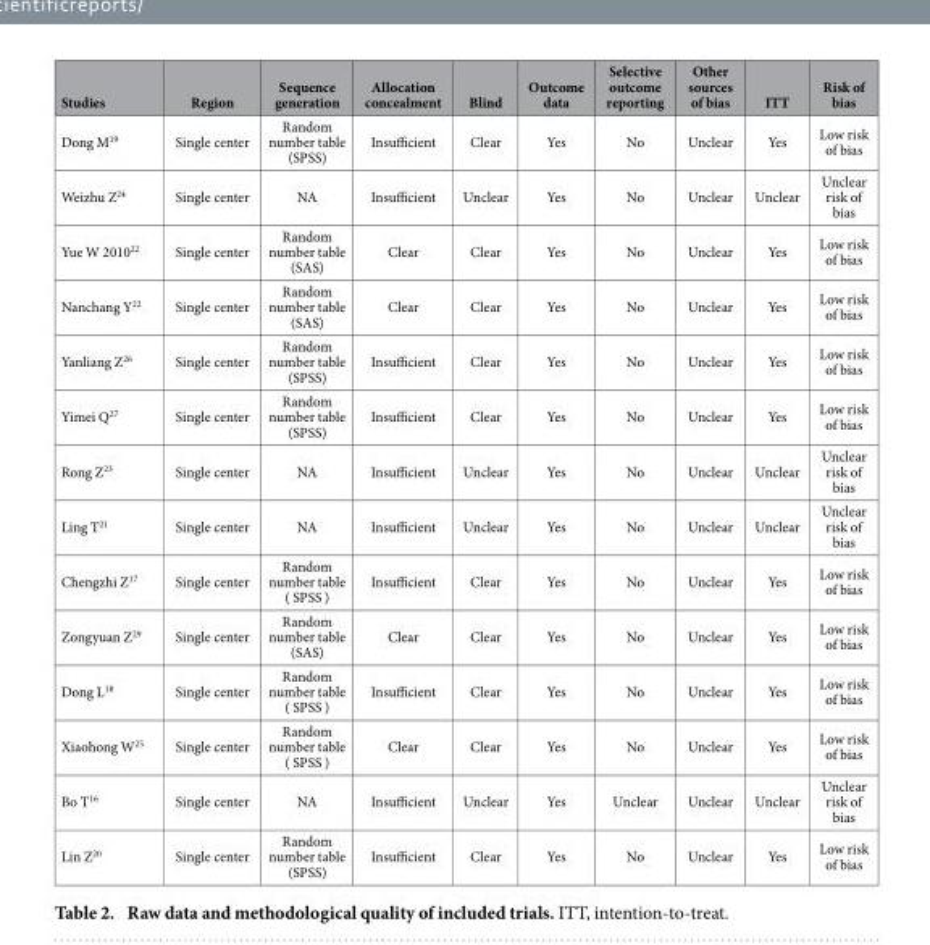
<table><thead><tr><td>Studies</td><td>Region</td><td>Sequence generation</td><td>Allocation concealment</td><td>Blind</td><td>Outcome data</td><td>Selective outcome reporting</td><td>Other sources of bias</td><td>ITT</td><td>Risk of bias</td></tr></thead><tbody><tr><td>Dong M<sup>19</sup></td><td>Single center</td><td>Random number table (SPSS)</td><td>Insufficient</td><td>Clear</td><td>Yes</td><td>No</td><td>Unclear</td><td>Yes</td><td>Low risk of bias</td></tr><tr><td>Weizhu Z<sup>24</sup></td><td>Single center</td><td>NA</td><td>Insufficient</td><td>Unclear</td><td>Yes</td><td>No</td><td>Unclear</td><td>Unclear</td><td>Unclear risk of bias</td></tr><tr><td>Yue W 2010<sup>22</sup></td><td>Single center</td><td>Random number table (SAS)</td><td>Clear</td><td>Clear</td><td>Yes</td><td>No</td><td>Unclear</td><td>Yes</td><td>Low risk of bias</td></tr><tr><td>Nanchang Y<sup>22</sup></td><td>Single center</td><td>Random number table (SAS)</td><td>Clear</td><td>Clear</td><td>Yes</td><td>No</td><td>Unclear</td><td>Yes</td><td>Low risk of bias</td></tr><tr><td>Yanliang Z<sup>26</sup></td><td>Single center</td><td>Random number table (SPSS)</td><td>Insufficient</td><td>Clear</td><td>Yes</td><td>No</td><td>Unclear</td><td>Yes</td><td>Low risk of bias</td></tr><tr><td>Yimei Q<sup>27</sup></td><td>Single center</td><td>Random number table (SPSS)</td><td>Insufficient</td><td>Clear</td><td>Yes</td><td>No</td><td>Unclear</td><td>Yes</td><td>Low risk of bias</td></tr><tr><td>Rong Z<sup>23</sup></td><td>Single center</td><td>NA</td><td>Insufficient</td><td>Unclear</td><td>Yes</td><td>No</td><td>Unclear</td><td>Unclear</td><td>Unclear risk of bias</td></tr><tr><td>Ling T<sup>21</sup></td><td>Single center</td><td>NA</td><td>Insufficient</td><td>Unclear</td><td>Yes</td><td>No</td><td>Unclear</td><td>Unclear</td><td>Unclear risk of bias</td></tr><tr><td>Chengzhi Z<sup>17</sup></td><td>Single center</td><td>Random number table ( SPSS )</td><td>Insufficient</td><td>Clear</td><td>Yes</td><td>No</td><td>Unclear</td><td>Yes</td><td>Low risk of bias</td></tr><tr><td>Zongyuan Z<sup>29</sup></td><td>Single center</td><td>Random number table (SAS)</td><td>Clear</td><td>Clear</td><td>Yes</td><td>No</td><td>Unclear</td><td>Yes</td><td>Low risk of bias</td></tr><tr><td>Dong L<sup>18</sup></td><td>Single center</td><td>Random number table ( SPSS )</td><td>Insufficient</td><td>Clear</td><td>Yes</td><td>No</td><td>Unclear</td><td>Yes</td><td>Low risk of bias</td></tr><tr><td>Xiaohong W<sup>25</sup></td><td>Single center</td><td>Random number table ( SPSS )</td><td>Clear</td><td>Clear</td><td>Yes</td><td>No</td><td>Unclear</td><td>Yes</td><td>Low risk of bias</td></tr><tr><td>Bo T<sup>16</sup></td><td>Single center</td><td>NA</td><td>Insufficient</td><td>Unclear</td><td>Yes</td><td>Unclear</td><td>Unclear</td><td>Unclear</td><td>Unclear risk of bias</td></tr><tr><td>Lin Z<sup>20</sup></td><td>Single center</td><td>Random number table (SPSS)</td><td>Insufficient</td><td>Clear</td><td>Yes</td><td>No</td><td>Unclear</td><td>Yes</td><td>Low risk of bias</td></tr></tbody></table>